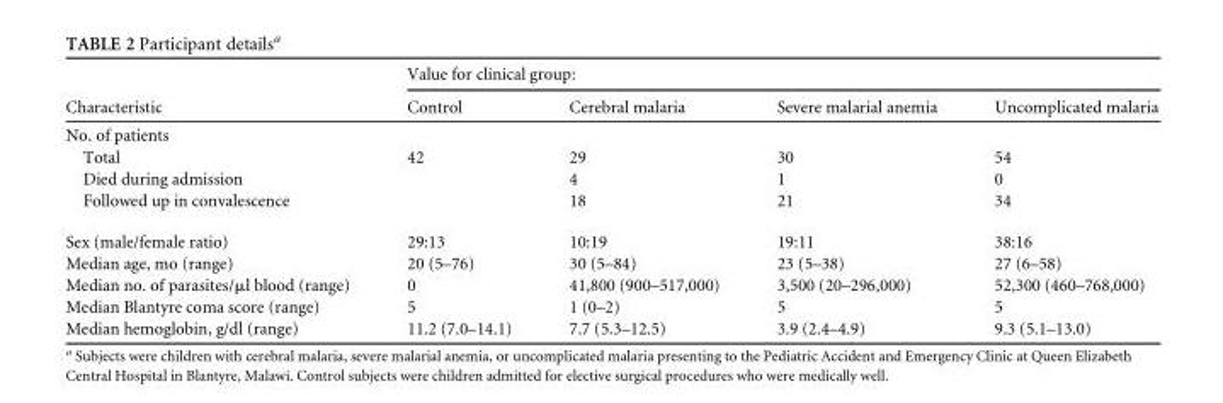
<table><thead><tr><td rowspan="2">Characteristic</td><td colspan="4">Value for clinical group:</td></tr><tr><td>Control</td><td>Cerebral malaria</td><td>Severe malarial anemia</td><td>Uncomplicated malaria</td></tr></thead><tbody><tr><td colspan="5">No. of patients</td></tr><tr><td>Total</td><td>42</td><td>29</td><td>30</td><td>54</td></tr><tr><td>Died during admission</td><td></td><td>4</td><td>1</td><td>0</td></tr><tr><td>Followed up in convalescence</td><td></td><td>18</td><td>21</td><td>34</td></tr><tr><td>Sex (male/female ratio)</td><td>29:13</td><td>10:19</td><td>19:11</td><td>38:16</td></tr><tr><td>Median age, mo (range)</td><td>20 (5–76)</td><td>30 (5–84)</td><td>23 (5–38)</td><td>27 (6–58)</td></tr><tr><td>Median no. of parasites/μl blood (range)</td><td>0</td><td>41,800 (900–517,000)</td><td>3,500 (20–296,000)</td><td>52,300 (460–768,000)</td></tr><tr><td>Median Blantyre coma score (range)</td><td>5</td><td>1 (0–2)</td><td>5</td><td>5</td></tr><tr><td>Median hemoglobin, g/dl (range)</td><td>11.2 (7.0–14.1)</td><td>7.7 (5.3–12.5)</td><td>3.9 (2.4–4.9)</td><td>9.3 (5.1–13.0)</td></tr></tbody></table>